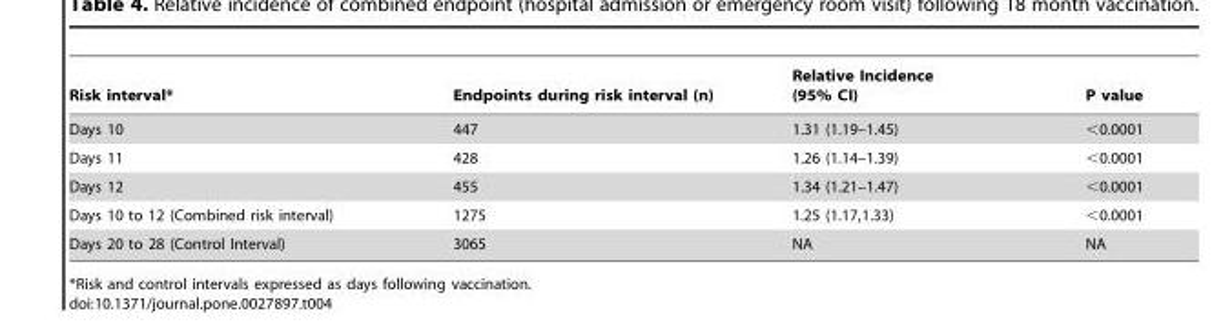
<table><thead><tr><td>Risk interval*</td><td>Endpoints during risk interval (n)</td><td>Relative Incidence (95% CI)</td><td>P value</td></tr></thead><tbody><tr><td>Days 10</td><td>447</td><td>1.31 (1.19–1.45)</td><td>&lt;0.0001</td></tr><tr><td>Days 11</td><td>428</td><td>1.26 (1.14–1.39)</td><td>&lt;0.0001</td></tr><tr><td>Days 12</td><td>455</td><td>1.34 (1.21–1.47)</td><td>&lt;0.0001</td></tr><tr><td>Days 10 to 12 (Combined risk interval)</td><td>1275</td><td>1.25 (1.17,1.33)</td><td>&lt;0.0001</td></tr><tr><td>Days 20 to 28 (Control Interval)</td><td>3065</td><td>NA</td><td>NA</td></tr></tbody></table>